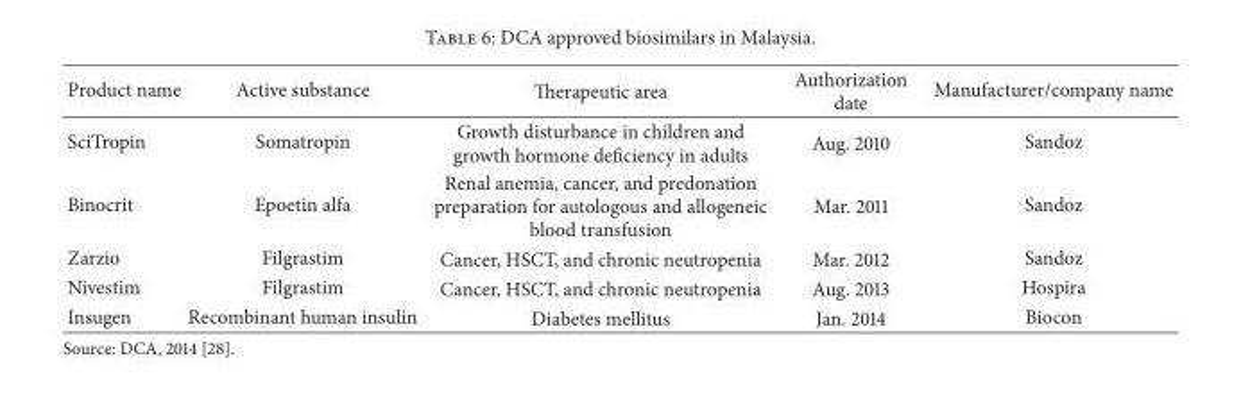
<table><thead><tr><td>Product name</td><td>Active substance</td><td>Therapeutic area</td><td>Authorization date</td><td>Manufacturer/company name</td></tr></thead><tbody><tr><td>SciTropin</td><td>Somatropin</td><td>Growth disturbance in children and growth hormone deficiency in adults</td><td>Aug. 2010</td><td>Sandoz</td></tr><tr><td>Binocrit</td><td>Epoetin alfa</td><td>Renal anemia, cancer, and predonation preparation for autologous and allogeneic blood transfusion</td><td>Mar. 2011</td><td>Sandoz</td></tr><tr><td>Zarzio</td><td>Filgrastim</td><td>Cancer, HSCT, and chronic neutropenia</td><td>Mar. 2012</td><td>Sandoz</td></tr><tr><td>Nivestim</td><td>Filgrastim</td><td>Cancer, HSCT, and chronic neutropenia</td><td>Aug. 2013</td><td>Hospira</td></tr><tr><td>Insugen</td><td>Recombinant human insulin</td><td>Diabetes mellitus</td><td>Jan. 2014</td><td>Biocon</td></tr></tbody></table>